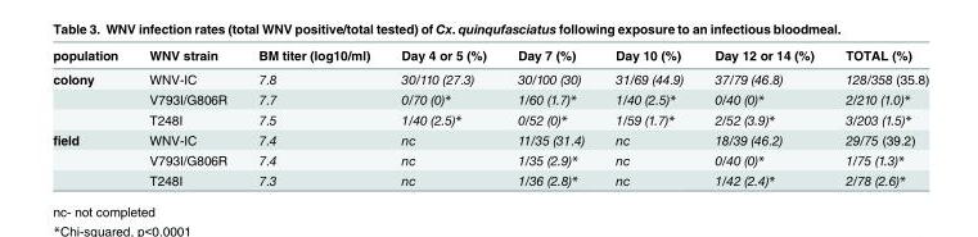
<table><thead><tr><td>population</td><td>WNV strain</td><td>BM titer (log10/ml)</td><td>Day 4 or 5 (%)</td><td>Day 7 (%)</td><td>Day 10 (%)</td><td>Day 12 or 14 (%)</td><td>TOTAL (%)</td></tr></thead><tbody><tr><td rowspan="3">colony</td><td>WNV-IC</td><td>7.8</td><td>30/110 (27.3)</td><td>30/100 (30)</td><td>31/69 (44.9)</td><td>37/79 (46.8)</td><td>128/358 (35.8)</td></tr><tr><td>V793I/G806R</td><td>7.7</td><td>0/70 (0)*</td><td>1/60 (1.7)*</td><td>1/40 (2.5)*</td><td>0/40 (0)*</td><td>2/210 (1.0)*</td></tr><tr><td>T248I</td><td>7.5</td><td>1/40 (2.5)*</td><td>0/52 (0)*</td><td>1/59 (1.7)*</td><td>2/52 (3.9)*</td><td>3/203 (1.5)*</td></tr><tr><td rowspan="3">field</td><td>WNV-IC</td><td>7.4</td><td>nc</td><td>11/35 (31.4)</td><td>nc</td><td>18/39 (46.2)</td><td>29/75 (39.2)</td></tr><tr><td>V793I/G806R</td><td>7.4</td><td>nc</td><td>1/35 (2.9)*</td><td>nc</td><td>0/40 (0)*</td><td>1/75 (1.3)*</td></tr><tr><td>T248I</td><td>7.3</td><td>nc</td><td>1/36 (2.8)*</td><td>nc</td><td>1/42 (2.4)*</td><td>2/78 (2.6)*</td></tr></tbody></table>